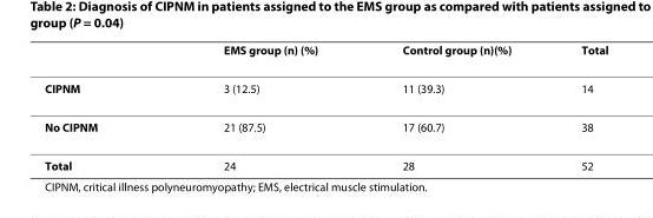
<table><thead><tr><td></td><td>EMS group (n) (%)</td><td>Control group (n)(%)</td><td>Total</td></tr></thead><tbody><tr><td>CIPNM</td><td>3 (12.5)</td><td>11 (39.3)</td><td>14</td></tr><tr><td>No CIPNM</td><td>21 (87.5)</td><td>17 (60.7)</td><td>38</td></tr><tr><td>Total</td><td>24</td><td>28</td><td>52</td></tr></tbody></table>